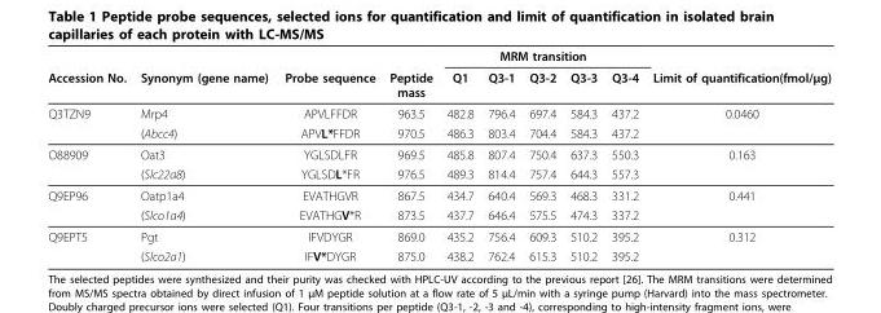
<table><thead><tr><td rowspan="2">Accession No.</td><td rowspan="2">Synonym (gene name)</td><td rowspan="2">Probe sequence</td><td rowspan="2">Peptide mass</td><td colspan="5">MRM transition</td><td rowspan="2">Limit of quantification(fmol/μg)</td></tr><tr><td>Q1</td><td>Q3-1</td><td>Q3-2</td><td>Q3-3</td><td>Q3-4</td></tr></thead><tbody><tr><td rowspan="2">Q3TZN9</td><td>Mrp4</td><td>APVLFFDR</td><td>963.5</td><td>482.8</td><td>796.4</td><td>697.4</td><td>584.3</td><td>437.2</td><td>0.0460</td></tr><tr><td>(Abcc4)</td><td>APVL*FFDR</td><td>970.5</td><td>486.3</td><td>803.4</td><td>704.4</td><td>584.3</td><td>437.2</td><td></td></tr><tr><td rowspan="2">O88909</td><td>Oat3</td><td>YGLSDLFR</td><td>969.5</td><td>485.8</td><td>807.4</td><td>750.4</td><td>637.3</td><td>550.3</td><td>0.163</td></tr><tr><td>(Slc22a8)</td><td>YGLSDL*FR</td><td>976.5</td><td>489.3</td><td>814.4</td><td>757.4</td><td>644.3</td><td>557.3</td><td></td></tr><tr><td rowspan="2">Q9EP96</td><td>Oatp1a4</td><td>EVATHGVR</td><td>867.5</td><td>434.7</td><td>640.4</td><td>569.3</td><td>468.3</td><td>331.2</td><td>0.441</td></tr><tr><td>(Slco1a4)</td><td>EVATHGV*R</td><td>873.5</td><td>437.7</td><td>646.4</td><td>575.5</td><td>474.3</td><td>337.2</td><td></td></tr><tr><td rowspan="2">Q9EPT5</td><td>Pgt</td><td>IFVDYGR</td><td>869.0</td><td>435.2</td><td>756.4</td><td>609.3</td><td>510.2</td><td>395.2</td><td>0.312</td></tr><tr><td>(Slco2a1)</td><td>IFV*DYGR</td><td>875.0</td><td>438.2</td><td>762.4</td><td>615.3</td><td>510.2</td><td>395.2</td><td></td></tr></tbody></table>